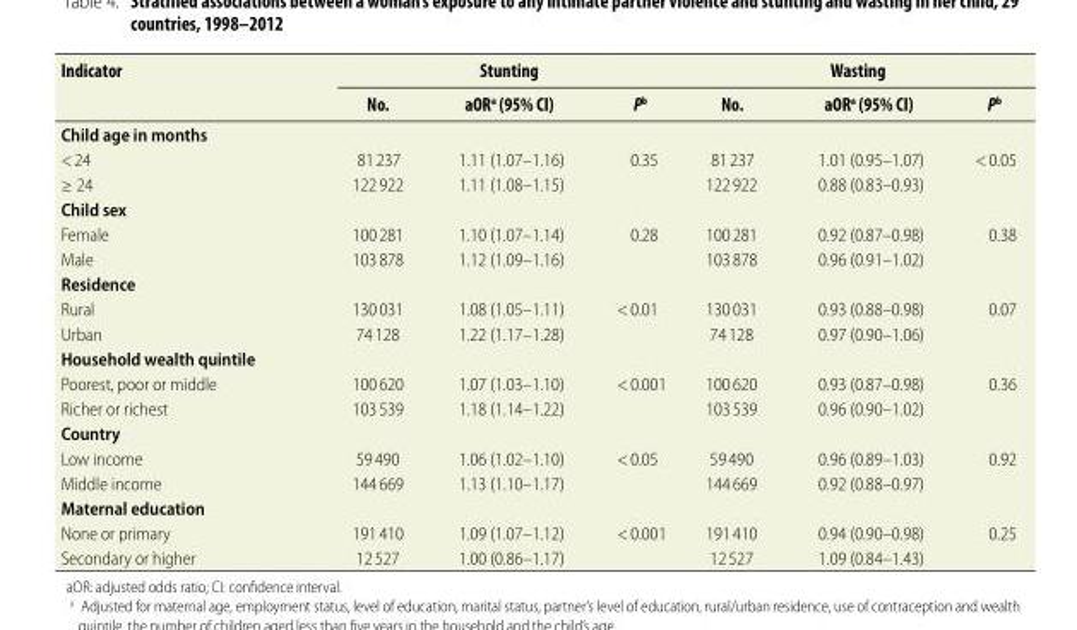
<table><thead><tr><td rowspan="2">Indicator</td><td colspan="3">Stunting</td><td colspan="3">Wasting</td></tr><tr><td>No.</td><td>aOR<sup>a</sup> (95% CI)</td><td>P<sup>b</sup></td><td>No.</td><td>aOR<sup>a</sup> (95% CI)</td><td>P<sup>b</sup></td></tr></thead><tbody><tr><td colspan="7">Child age in months</td></tr><tr><td>&lt; 24</td><td>81 237</td><td>1.11 (1.07–1.16)</td><td rowspan="2">0.35</td><td>81 237</td><td>1.01 (0.95–1.07)</td><td rowspan="2">&lt; 0.05</td></tr><tr><td>≥ 24</td><td>122 922</td><td>1.11 (1.08–1.15)</td><td>122 922</td><td>0.88 (0.83–0.93)</td></tr><tr><td colspan="7">Child sex</td></tr><tr><td>Female</td><td>100 281</td><td>1.10 (1.07–1.14)</td><td rowspan="2">0.28</td><td>100 281</td><td>0.92 (0.87–0.98)</td><td rowspan="2">0.38</td></tr><tr><td>Male</td><td>103 878</td><td>1.12 (1.09–1.16)</td><td>103 878</td><td>0.96 (0.91–1.02)</td></tr><tr><td colspan="7">Residence</td></tr><tr><td>Rural</td><td>130 031</td><td>1.08 (1.05–1.11)</td><td rowspan="2">&lt; 0.01</td><td>130 031</td><td>0.93 (0.88–0.98)</td><td rowspan="2">0.07</td></tr><tr><td>Urban</td><td>74 128</td><td>1.22 (1.17–1.28)</td><td>74 128</td><td>0.97 (0.90–1.06)</td></tr><tr><td colspan="7">Household wealth quintile</td></tr><tr><td>Poorest, poor or middle</td><td>100 620</td><td>1.07 (1.03–1.10)</td><td rowspan="2">&lt; 0.001</td><td>100 620</td><td>0.93 (0.87–0.98)</td><td rowspan="2">0.36</td></tr><tr><td>Richer or richest</td><td>103 539</td><td>1.18 (1.14–1.22)</td><td>103 539</td><td>0.96 (0.90–1.02)</td></tr><tr><td colspan="7">Country</td></tr><tr><td>Low income</td><td>59 490</td><td>1.06 (1.02–1.10)</td><td rowspan="2">&lt; 0.05</td><td>59 490</td><td>0.96 (0.89–1.03)</td><td rowspan="2">0.92</td></tr><tr><td>Middle income</td><td>144 669</td><td>1.13 (1.10–1.17)</td><td>144 669</td><td>0.92 (0.88–0.97)</td></tr><tr><td colspan="7">Maternal education</td></tr><tr><td>None or primary</td><td>191 410</td><td>1.09 (1.07–1.12)</td><td rowspan="2">&lt; 0.001</td><td>191 410</td><td>0.94 (0.90–0.98)</td><td rowspan="2">0.25</td></tr><tr><td>Secondary or higher</td><td>12 527</td><td>1.00 (0.86–1.17)</td><td>12 527</td><td>1.09 (0.84–1.43)</td></tr></tbody></table>